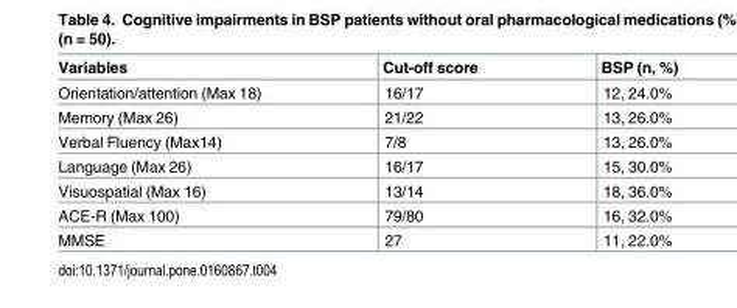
<table><thead><tr><td>Variables</td><td>Cut-off score</td><td>BSP (n, %)</td></tr></thead><tbody><tr><td>Orientation/attention (Max 18)</td><td>16/17</td><td>12, 24.0%</td></tr><tr><td>Memory (Max 26)</td><td>21/22</td><td>13, 26.0%</td></tr><tr><td>Verbal Fluency (Max14)</td><td>7/8</td><td>13, 26.0%</td></tr><tr><td>Language (Max 26)</td><td>16/17</td><td>15, 30.0%</td></tr><tr><td>Visuospatial (Max 16)</td><td>13/14</td><td>18, 36.0%</td></tr><tr><td>ACE-R (Max 100)</td><td>79/80</td><td>16, 32.0%</td></tr><tr><td>MMSE</td><td>27</td><td>11, 22.0%</td></tr></tbody></table>